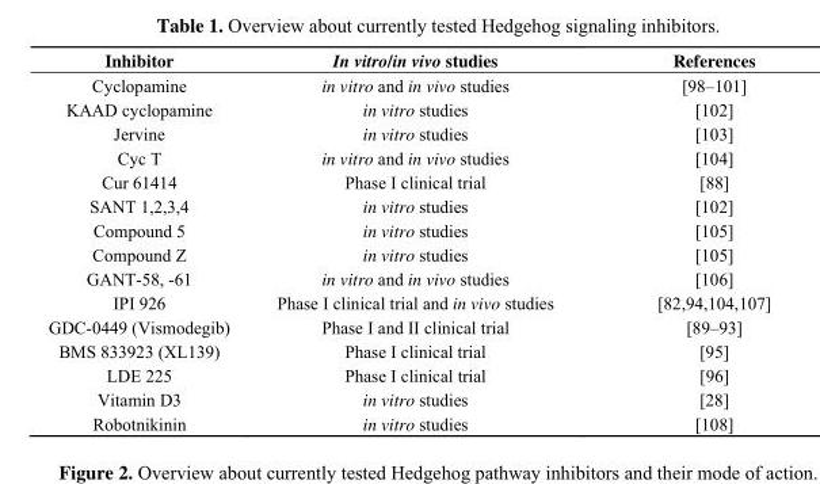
<table><thead><tr><td>Inhibitor</td><td>In vitro/in vivo studies</td><td>References</td></tr></thead><tbody><tr><td>Cyclopamine</td><td>in vitro and in vivo studies</td><td>[98–101]</td></tr><tr><td>KAAD cyclopamine</td><td>in vitro studies</td><td>[102]</td></tr><tr><td>Jervine</td><td>in vitro studies</td><td>[103]</td></tr><tr><td>Cyc T</td><td>in vitro and in vivo studies</td><td>[104]</td></tr><tr><td>Cur 61414</td><td>Phase I clinical trial</td><td>[88]</td></tr><tr><td>SANT 1,2,3,4</td><td>in vitro studies</td><td>[102]</td></tr><tr><td>Compound 5</td><td>in vitro studies</td><td>[105]</td></tr><tr><td>Compound Z</td><td>in vitro studies</td><td>[105]</td></tr><tr><td>GANT-58, -61</td><td>in vitro and in vivo studies</td><td>[106]</td></tr><tr><td>IPI 926</td><td>Phase I clinical trial and in vivo studies</td><td>[82,94,104,107]</td></tr><tr><td>GDC-0449 (Vismodegib)</td><td>Phase I and II clinical trial</td><td>[89–93]</td></tr><tr><td>BMS 833923 (XL139)</td><td>Phase I clinical trial</td><td>[95]</td></tr><tr><td>LDE 225</td><td>Phase I clinical trial</td><td>[96]</td></tr><tr><td>Vitamin D3</td><td>in vitro studies</td><td>[28]</td></tr><tr><td>Robotnikinin</td><td>in vitro studies</td><td>[108]</td></tr></tbody></table>